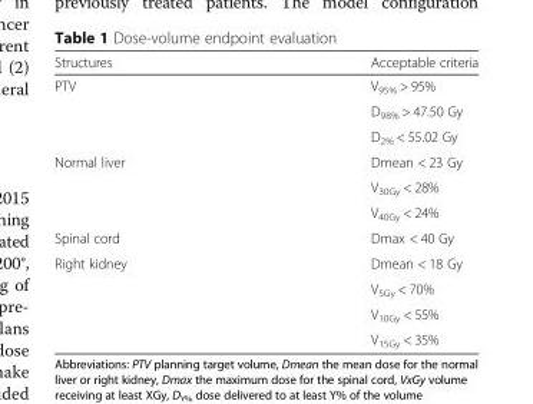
<table><thead><tr><td>Structures</td><td>Acceptable criteria</td></tr></thead><tbody><tr><td rowspan="3">PTV</td><td>V<sub>95%</sub> &gt; 95%</td></tr><tr><td>D<sub>98%</sub> &gt; 47.50 Gy</td></tr><tr><td>D<sub>2%</sub> &lt; 55.02 Gy</td></tr><tr><td rowspan="3">Normal liver</td><td>Dmean &lt; 23 Gy</td></tr><tr><td>V<sub>30Gy</sub> &lt; 28%</td></tr><tr><td>V<sub>40Gy</sub> &lt; 24%</td></tr><tr><td>Spinal cord</td><td>Dmax &lt; 40 Gy</td></tr><tr><td rowspan="4">Right kidney</td><td>Dmean &lt; 18 Gy</td></tr><tr><td>V<sub>5Gy</sub> &lt; 70%</td></tr><tr><td>V<sub>10Gy</sub> &lt; 55%</td></tr><tr><td>V<sub>15Gy</sub> &lt; 35%</td></tr></tbody></table>